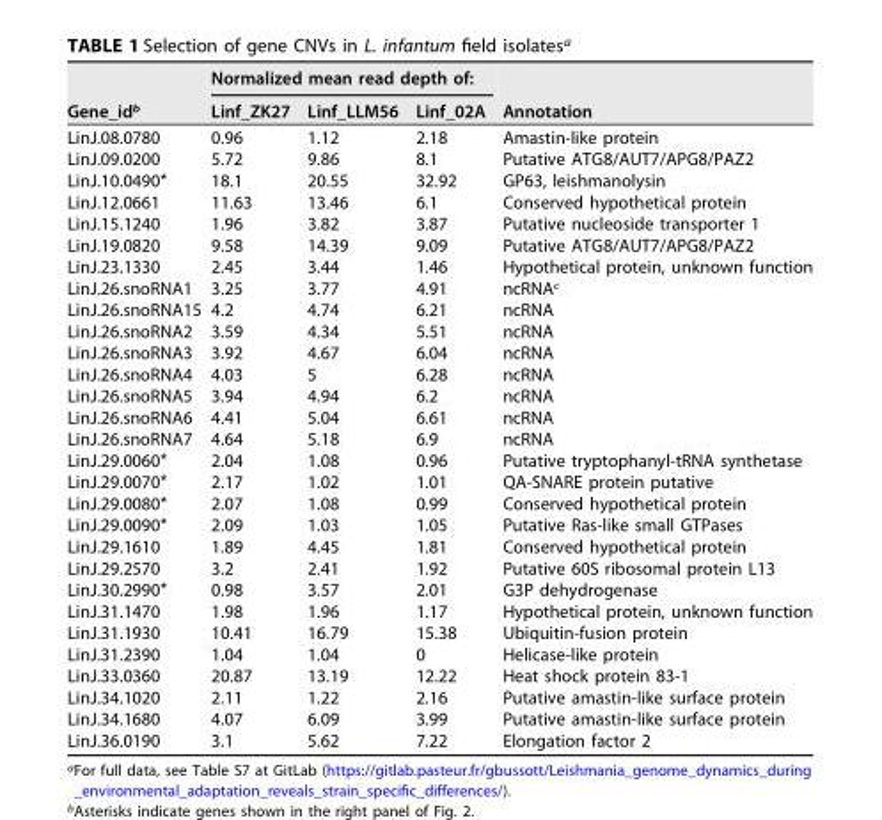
<table><thead><tr><td rowspan="2">Gene_id<sup>b</sup></td><td colspan="3">Normalized mean read depth of:</td><td rowspan="2">Annotation</td></tr><tr><td>Linf_ZK27</td><td>Linf_LLM56</td><td>Linf_02A</td></tr></thead><tbody><tr><td>LinJ.08.0780</td><td>0.96</td><td>1.12</td><td>2.18</td><td>Amastin-like protein</td></tr><tr><td>LinJ.09.0200</td><td>5.72</td><td>9.86</td><td>8.1</td><td>Putative ATG8/AUT7/APG8/PAZ2</td></tr><tr><td>LinJ.10.0490*</td><td>18.1</td><td>20.55</td><td>32.92</td><td>GP63, leishmanolysin</td></tr><tr><td>LinJ.12.0661</td><td>11.63</td><td>13.46</td><td>6.1</td><td>Conserved hypothetical protein</td></tr><tr><td>LinJ.15.1240</td><td>1.96</td><td>3.82</td><td>3.87</td><td>Putative nucleoside transporter 1</td></tr><tr><td>LinJ.19.0820</td><td>9.58</td><td>14.39</td><td>9.09</td><td>Putative ATG8/AUT7/APG8/PAZ2</td></tr><tr><td>LinJ.23.1330</td><td>2.45</td><td>3.44</td><td>1.46</td><td>Hypothetical protein, unknown function</td></tr><tr><td>LinJ.26.snoRNA1</td><td>3.25</td><td>3.77</td><td>4.91</td><td>ncRNA<sup>c</sup></td></tr><tr><td>LinJ.26.snoRNA15</td><td>4.2</td><td>4.74</td><td>6.21</td><td>ncRNA</td></tr><tr><td>LinJ.26.snoRNA2</td><td>3.59</td><td>4.34</td><td>5.51</td><td>ncRNA</td></tr><tr><td>LinJ.26.snoRNA3</td><td>3.92</td><td>4.67</td><td>6.04</td><td>ncRNA</td></tr><tr><td>LinJ.26.snoRNA4</td><td>4.03</td><td>5</td><td>6.28</td><td>ncRNA</td></tr><tr><td>LinJ.26.snoRNA5</td><td>3.94</td><td>4.94</td><td>6.2</td><td>ncRNA</td></tr><tr><td>LinJ.26.snoRNA6</td><td>4.41</td><td>5.04</td><td>6.61</td><td>ncRNA</td></tr><tr><td>LinJ.26.snoRNA7</td><td>4.64</td><td>5.18</td><td>6.9</td><td>ncRNA</td></tr><tr><td>LinJ.29.0060*</td><td>2.04</td><td>1.08</td><td>0.96</td><td>Putative tryptophanyl-tRNA synthetase</td></tr><tr><td>LinJ.29.0070*</td><td>2.17</td><td>1.02</td><td>1.01</td><td>QA-SNARE protein putative</td></tr><tr><td>LinJ.29.0080*</td><td>2.07</td><td>1.08</td><td>0.99</td><td>Conserved hypothetical protein</td></tr><tr><td>LinJ.29.0090*</td><td>2.09</td><td>1.03</td><td>1.05</td><td>Putative Ras-like small GTPases</td></tr><tr><td>LinJ.29.1610</td><td>1.89</td><td>4.45</td><td>1.81</td><td>Conserved hypothetical protein</td></tr><tr><td>LinJ.29.2570</td><td>3.2</td><td>2.41</td><td>1.92</td><td>Putative 60S ribosomal protein L13</td></tr><tr><td>LinJ.30.2990*</td><td>0.98</td><td>3.57</td><td>2.01</td><td>G3P dehydrogenase</td></tr><tr><td>LinJ.31.1470</td><td>1.98</td><td>1.96</td><td>1.17</td><td>Hypothetical protein, unknown function</td></tr><tr><td>LinJ.31.1930</td><td>10.41</td><td>16.79</td><td>15.38</td><td>Ubiquitin-fusion protein</td></tr><tr><td>LinJ.31.2390</td><td>1.04</td><td>1.04</td><td>0</td><td>Helicase-like protein</td></tr><tr><td>LinJ.33.0360</td><td>20.87</td><td>13.19</td><td>12.22</td><td>Heat shock protein 83-1</td></tr><tr><td>LinJ.34.1020</td><td>2.11</td><td>1.22</td><td>2.16</td><td>Putative amastin-like surface protein</td></tr><tr><td>LinJ.34.1680</td><td>4.07</td><td>6.09</td><td>3.99</td><td>Putative amastin-like surface protein</td></tr><tr><td>LinJ.36.0190</td><td>3.1</td><td>5.62</td><td>7.22</td><td>Elongation factor 2</td></tr></tbody></table>